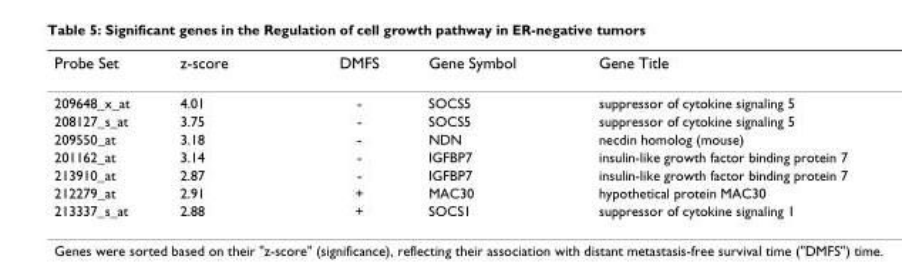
<table><thead><tr><td>Probe Set</td><td>z-score</td><td>DMFS</td><td>Gene Symbol</td><td>Gene Title</td></tr></thead><tbody><tr><td>209648_x_at</td><td>4.01</td><td>-</td><td>SOCS5</td><td>suppressor of cytokine signaling 5</td></tr><tr><td>208127_s_at</td><td>3.75</td><td>-</td><td>SOCS5</td><td>suppressor of cytokine signaling 5</td></tr><tr><td>209550_at</td><td>3.18</td><td>-</td><td>NDN</td><td>necdin homolog (mouse)</td></tr><tr><td>201162_at</td><td>3.14</td><td>-</td><td>IGFBP7</td><td>insulin-like growth factor binding protein 7</td></tr><tr><td>213910_at</td><td>2.87</td><td>-</td><td>IGFBP7</td><td>insulin-like growth factor binding protein 7</td></tr><tr><td>212279_at</td><td>2.91</td><td>+</td><td>MAC30</td><td>hypothetical protein MAC30</td></tr><tr><td>213337_s_at</td><td>2.88</td><td>+</td><td>SOCS1</td><td>suppressor of cytokine signaling 1</td></tr></tbody></table>